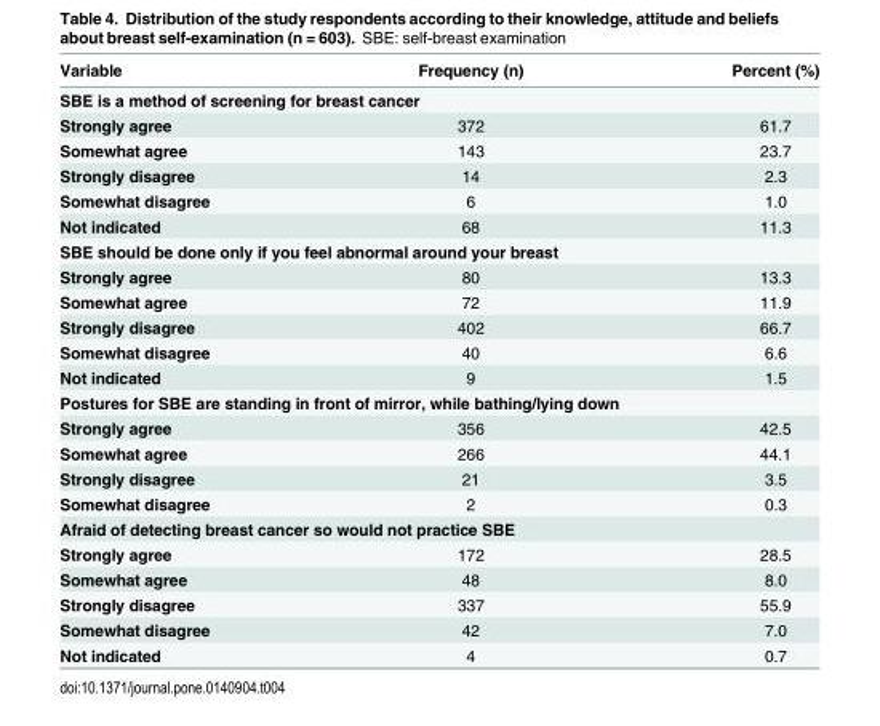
<table><thead><tr><td>Variable</td><td>Frequency (n)</td><td>Percent (%)</td></tr></thead><tbody><tr><td colspan="3">SBE is a method of screening for breast cancer</td></tr><tr><td>Strongly agree</td><td>372</td><td>61.7</td></tr><tr><td>Somewhat agree</td><td>143</td><td>23.7</td></tr><tr><td>Strongly disagree</td><td>14</td><td>2.3</td></tr><tr><td>Somewhat disagree</td><td>6</td><td>1.0</td></tr><tr><td>Not indicated</td><td>68</td><td>11.3</td></tr><tr><td colspan="3">SBE should be done only if you feel abnormal around your breast</td></tr><tr><td>Strongly agree</td><td>80</td><td>13.3</td></tr><tr><td>Somewhat agree</td><td>72</td><td>11.9</td></tr><tr><td>Strongly disagree</td><td>402</td><td>66.7</td></tr><tr><td>Somewhat disagree</td><td>40</td><td>6.6</td></tr><tr><td>Not indicated</td><td>9</td><td>1.5</td></tr><tr><td colspan="3">Postures for SBE are standing in front of mirror, while bathing/lying down</td></tr><tr><td>Strongly agree</td><td>356</td><td>42.5</td></tr><tr><td>Somewhat agree</td><td>266</td><td>44.1</td></tr><tr><td>Strongly disagree</td><td>21</td><td>3.5</td></tr><tr><td>Somewhat disagree</td><td>2</td><td>0.3</td></tr><tr><td colspan="3">Afraid of detecting breast cancer so would not practice SBE</td></tr><tr><td>Strongly agree</td><td>172</td><td>28.5</td></tr><tr><td>Somewhat agree</td><td>48</td><td>8.0</td></tr><tr><td>Strongly disagree</td><td>337</td><td>55.9</td></tr><tr><td>Somewhat disagree</td><td>42</td><td>7.0</td></tr><tr><td>Not indicated</td><td>4</td><td>0.7</td></tr></tbody></table>